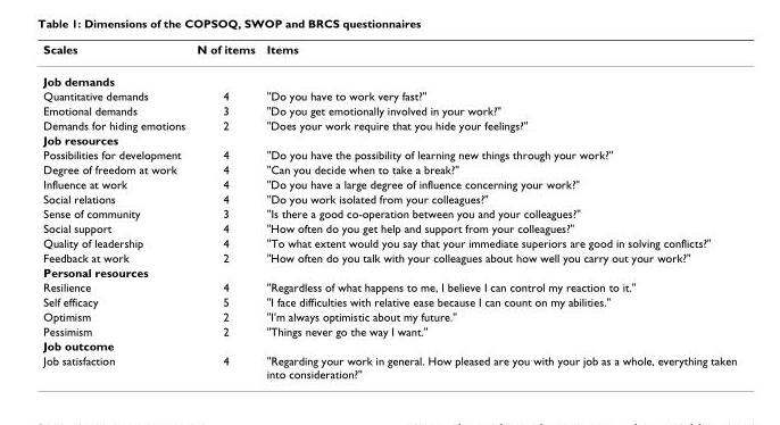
<table><thead><tr><td>Scales</td><td>N of items</td><td>Items</td></tr></thead><tbody><tr><td colspan="3">Job demands</td></tr><tr><td>Quantitative demands</td><td>4</td><td>&quot;Do you have to work very fast?&quot;</td></tr><tr><td>Emotional demands</td><td>3</td><td>&quot;Do you get emotionally involved in your work?&quot;</td></tr><tr><td>Demands for hiding emotions</td><td>2</td><td>&quot;Does your work require that you hide your feelings?&quot;</td></tr><tr><td colspan="3">Job resources</td></tr><tr><td>Possibilities for development</td><td>4</td><td>&quot;Do you have the possibility of learning new things through your work?&quot;</td></tr><tr><td>Degree of freedom at work</td><td>4</td><td>&quot;Can you decide when to take a break?&quot;</td></tr><tr><td>Influence at work</td><td>4</td><td>&quot;Do you have a large degree of influence concerning your work?&quot;</td></tr><tr><td>Social relations</td><td>4</td><td>&quot;Do you work isolated from your colleagues?&quot;</td></tr><tr><td>Sense of community</td><td>3</td><td>&quot;Is there a good co-operation between you and your colleagues?&quot;</td></tr><tr><td>Social support</td><td>4</td><td>&quot;How often do you get help and support from your colleagues?&quot;</td></tr><tr><td>Quality of leadership</td><td>4</td><td>&quot;To what extent would you say that your immediate superiors are good in solving conflicts?&quot;</td></tr><tr><td>Feedback at work</td><td>2</td><td>&quot;How often do you talk with your colleagues about how well you carry out your work?&quot;</td></tr><tr><td colspan="3">Personal resources</td></tr><tr><td>Resilience</td><td>4</td><td>&quot;Regardless of what happens to me, I believe I can control my reaction to it.&quot;</td></tr><tr><td>Self efficacy</td><td>5</td><td>&quot;I face difficulties with relative ease because I can count on my abilities.&quot;</td></tr><tr><td>Optimism</td><td>2</td><td>&quot;I&#x27;m always optimistic about my future.&quot;</td></tr><tr><td>Pessimism</td><td>2</td><td>&quot;Things never go the way I want.&quot;</td></tr><tr><td colspan="3">Job outcome</td></tr><tr><td>Job satisfaction</td><td>4</td><td>&quot;Regarding your work in general. How pleased are you with your job as a whole, everything taken into consideration?&quot;</td></tr></tbody></table>